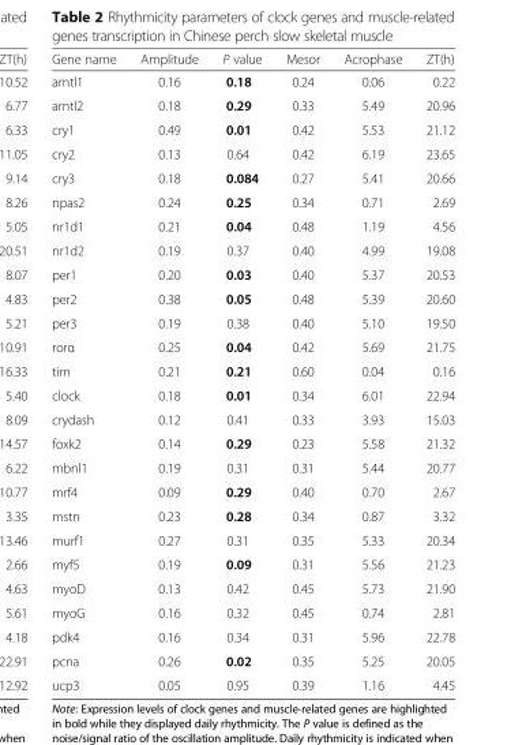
<table><thead><tr><td>Gene name</td><td>Amplitude</td><td>P value</td><td>Mesor</td><td>Acrophase</td><td>ZT(h)</td></tr></thead><tbody><tr><td>arntl1</td><td>0.16</td><td>0.18</td><td>0.24</td><td>0.06</td><td>0.22</td></tr><tr><td>arntl2</td><td>0.18</td><td>0.29</td><td>0.33</td><td>5.49</td><td>20.96</td></tr><tr><td>cry1</td><td>0.49</td><td>0.01</td><td>0.42</td><td>5.53</td><td>21.12</td></tr><tr><td>cry2</td><td>0.13</td><td>0.64</td><td>0.42</td><td>6.19</td><td>23.65</td></tr><tr><td>cry3</td><td>0.18</td><td>0.084</td><td>0.27</td><td>5.41</td><td>20.66</td></tr><tr><td>npas2</td><td>0.24</td><td>0.25</td><td>0.34</td><td>0.71</td><td>2.69</td></tr><tr><td>nr1d1</td><td>0.21</td><td>0.04</td><td>0.48</td><td>1.19</td><td>4.56</td></tr><tr><td>nr1d2</td><td>0.19</td><td>0.37</td><td>0.40</td><td>4.99</td><td>19.08</td></tr><tr><td>per1</td><td>0.20</td><td>0.03</td><td>0.40</td><td>5.37</td><td>20.53</td></tr><tr><td>per2</td><td>0.38</td><td>0.05</td><td>0.48</td><td>5.39</td><td>20.60</td></tr><tr><td>per3</td><td>0.19</td><td>0.38</td><td>0.40</td><td>5.10</td><td>19.50</td></tr><tr><td>rorα</td><td>0.25</td><td>0.04</td><td>0.42</td><td>5.69</td><td>21.75</td></tr><tr><td>tim</td><td>0.21</td><td>0.21</td><td>0.60</td><td>0.04</td><td>0.16</td></tr><tr><td>clock</td><td>0.18</td><td>0.01</td><td>0.34</td><td>6.01</td><td>22.94</td></tr><tr><td>crydash</td><td>0.12</td><td>0.41</td><td>0.33</td><td>3.93</td><td>15.03</td></tr><tr><td>foxk2</td><td>0.14</td><td>0.29</td><td>0.23</td><td>5.58</td><td>21.32</td></tr><tr><td>mbnl1</td><td>0.19</td><td>0.31</td><td>0.31</td><td>5.44</td><td>20.77</td></tr><tr><td>mrf4</td><td>0.09</td><td>0.29</td><td>0.40</td><td>0.70</td><td>2.67</td></tr><tr><td>mstn</td><td>0.23</td><td>0.28</td><td>0.34</td><td>0.87</td><td>3.32</td></tr><tr><td>murf1</td><td>0.27</td><td>0.31</td><td>0.35</td><td>5.33</td><td>20.34</td></tr><tr><td>myf5</td><td>0.19</td><td>0.09</td><td>0.31</td><td>5.56</td><td>21.23</td></tr><tr><td>myoD</td><td>0.13</td><td>0.42</td><td>0.45</td><td>5.73</td><td>21.90</td></tr><tr><td>myoG</td><td>0.16</td><td>0.32</td><td>0.45</td><td>0.74</td><td>2.81</td></tr><tr><td>pdk4</td><td>0.16</td><td>0.34</td><td>0.31</td><td>5.96</td><td>22.78</td></tr><tr><td>pcna</td><td>0.26</td><td>0.02</td><td>0.35</td><td>5.25</td><td>20.05</td></tr><tr><td>ucp3</td><td>0.05</td><td>0.95</td><td>0.39</td><td>1.16</td><td>4.45</td></tr></tbody></table>